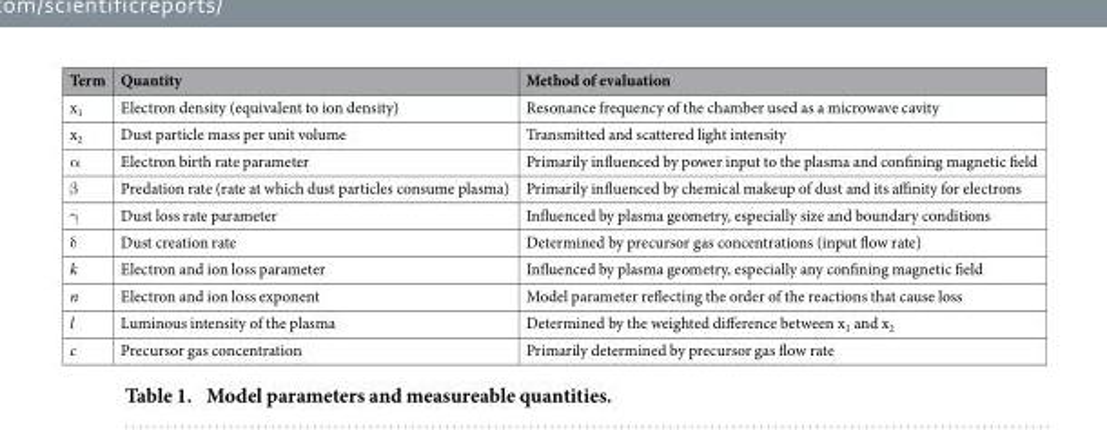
<table><thead><tr><td>Term</td><td>Quantity</td><td>Method of evaluation</td></tr></thead><tbody><tr><td>x<sub>1</sub></td><td>Electron density (equivalent to ion density)</td><td>Resonance frequency of the chamber used as a microwave cavity</td></tr><tr><td>x<sub>2</sub></td><td>Dust particle mass per unit volume</td><td>Transmitted and scattered light intensity</td></tr><tr><td>α</td><td>Electron birth rate parameter</td><td>Primarily influenced by power input to the plasma and confining magnetic field</td></tr><tr><td>β</td><td>Predation rate (rate at which dust particles consume plasma)</td><td>Primarily influenced by chemical makeup of dust and its affinity for electrons</td></tr><tr><td>γ</td><td>Dust loss rate parameter</td><td>Influenced by plasma geometry, especially size and boundary conditions</td></tr><tr><td>δ</td><td>Dust creation rate</td><td>Determined by precursor gas concentrations (input flow rate)</td></tr><tr><td>k</td><td>Electron and ion loss parameter</td><td>Influenced by plasma geometry, especially any confining magnetic field</td></tr><tr><td>n</td><td>Electron and ion loss exponent</td><td>Model parameter reflecting the order of the reactions that cause loss</td></tr><tr><td>l</td><td>Luminous intensity of the plasma</td><td>Determined by the weighted difference between x<sub>1</sub> and x<sub>2</sub></td></tr><tr><td>c</td><td>Precursor gas concentration</td><td>Primarily determined by precursor gas flow rate</td></tr></tbody></table>